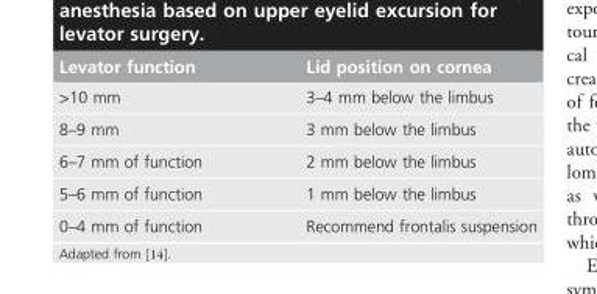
<table><thead><tr><td>Levator function</td><td>Lid position on cornea</td></tr></thead><tbody><tr><td>&gt;10 mm</td><td>3–4 mm below the limbus</td></tr><tr><td>8–9 mm</td><td>3 mm below the limbus</td></tr><tr><td>6–7 mm of function</td><td>2 mm below the limbus</td></tr><tr><td>5–6 mm of function</td><td>1 mm below the limbus</td></tr><tr><td>0–4 mm of function</td><td>Recommend frontalis suspension</td></tr></tbody></table>